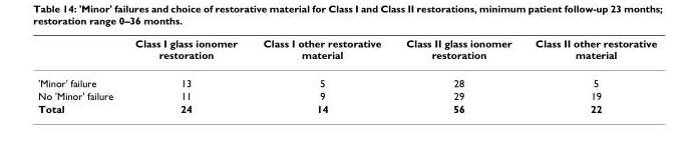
<table><thead><tr><td></td><td>Class I glass ionomer restoration</td><td>Class I other restorative material</td><td>Class II glass ionomer restoration</td><td>Class II other restorative material</td></tr></thead><tbody><tr><td>&#x27;Minor&#x27; failure</td><td>13</td><td>5</td><td>28</td><td>5</td></tr><tr><td>No &#x27;Minor&#x27; failure</td><td>11</td><td>9</td><td>29</td><td>19</td></tr><tr><td>Total</td><td>24</td><td>14</td><td>56</td><td>22</td></tr></tbody></table>